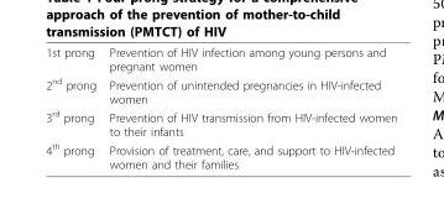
<table><tbody><tr><td>1st prong</td><td>Prevention of HIV infection among young persons and pregnant women</td></tr><tr><td>2<sup>nd</sup> prong</td><td>Prevention of unintended pregnancies in HIV-infected women</td></tr><tr><td>3<sup>rd</sup> prong</td><td>Prevention of HIV transmission from HIV-infected women to their infants</td></tr><tr><td>4<sup>th</sup> prong</td><td>Provision of treatment, care, and support to HIV-infected women and their families</td></tr></tbody></table>